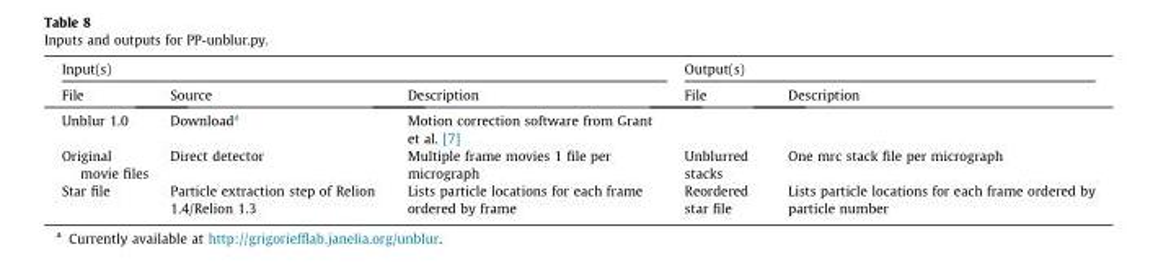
<table><thead><tr><td colspan="3">Input(s)</td><td colspan="2">Output(s)</td></tr><tr><td>File</td><td>Source</td><td>Description</td><td>File</td><td>Description</td></tr></thead><tbody><tr><td>Unblur 1.0</td><td>Download<sup>a</sup></td><td>Motion correction software from Grant et al. [7]</td><td></td><td></td></tr><tr><td>Original movie files</td><td>Direct detector</td><td>Multiple frame movies 1 file per micrograph</td><td>Unblurred stacks</td><td>One mrc stack file per micrograph</td></tr><tr><td>Star file</td><td>Particle extraction step of Relion 1.4/Relion 1.3</td><td>Lists particle locations for each frame ordered by frame</td><td>Reordered star file</td><td>Lists particle locations for each frame ordered by particle number</td></tr></tbody></table>